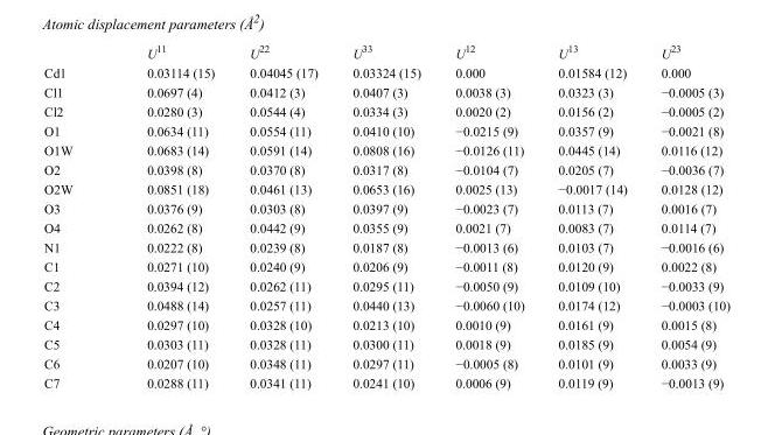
<table><thead><tr><td></td><td>U<sup>11</sup></td><td>U<sup>22</sup></td><td>U<sup>33</sup></td><td>U<sup>12</sup></td><td>U<sup>13</sup></td><td>U<sup>23</sup></td></tr></thead><tbody><tr><td>Cd1</td><td>0.03114 (15)</td><td>0.04045 (17)</td><td>0.03324 (15)</td><td>0.000</td><td>0.01584 (12)</td><td>0.000</td></tr><tr><td>Cl1</td><td>0.0697 (4)</td><td>0.0412 (3)</td><td>0.0407 (3)</td><td>0.0038 (3)</td><td>0.0323 (3)</td><td>−0.0005 (3)</td></tr><tr><td>Cl2</td><td>0.0280 (3)</td><td>0.0544 (4)</td><td>0.0334 (3)</td><td>0.0020 (2)</td><td>0.0156 (2)</td><td>−0.0005 (2)</td></tr><tr><td>O1</td><td>0.0634 (11)</td><td>0.0554 (11)</td><td>0.0410 (10)</td><td>−0.0215 (9)</td><td>0.0357 (9)</td><td>−0.0021 (8)</td></tr><tr><td>O1W</td><td>0.0683 (14)</td><td>0.0591 (14)</td><td>0.0808 (16)</td><td>−0.0126 (11)</td><td>0.0445 (14)</td><td>0.0116 (12)</td></tr><tr><td>O2</td><td>0.0398 (8)</td><td>0.0370 (8)</td><td>0.0317 (8)</td><td>−0.0104 (7)</td><td>0.0205 (7)</td><td>−0.0036 (7)</td></tr><tr><td>O2W</td><td>0.0851 (18)</td><td>0.0461 (13)</td><td>0.0653 (16)</td><td>0.0025 (13)</td><td>−0.0017 (14)</td><td>0.0128 (12)</td></tr><tr><td>O3</td><td>0.0376 (9)</td><td>0.0303 (8)</td><td>0.0397 (9)</td><td>−0.0023 (7)</td><td>0.0113 (7)</td><td>0.0016 (7)</td></tr><tr><td>O4</td><td>0.0262 (8)</td><td>0.0442 (9)</td><td>0.0355 (9)</td><td>0.0021 (7)</td><td>0.0083 (7)</td><td>0.0114 (7)</td></tr><tr><td>N1</td><td>0.0222 (8)</td><td>0.0239 (8)</td><td>0.0187 (8)</td><td>−0.0013 (6)</td><td>0.0103 (7)</td><td>−0.0016 (6)</td></tr><tr><td>C1</td><td>0.0271 (10)</td><td>0.0240 (9)</td><td>0.0206 (9)</td><td>−0.0011 (8)</td><td>0.0120 (9)</td><td>0.0022 (8)</td></tr><tr><td>C2</td><td>0.0394 (12)</td><td>0.0262 (11)</td><td>0.0295 (11)</td><td>−0.0050 (9)</td><td>0.0109 (10)</td><td>−0.0033 (9)</td></tr><tr><td>C3</td><td>0.0488 (14)</td><td>0.0257 (11)</td><td>0.0440 (13)</td><td>−0.0060 (10)</td><td>0.0174 (12)</td><td>−0.0003 (10)</td></tr><tr><td>C4</td><td>0.0297 (10)</td><td>0.0328 (10)</td><td>0.0213 (10)</td><td>0.0010 (9)</td><td>0.0161 (9)</td><td>0.0015 (8)</td></tr><tr><td>C5</td><td>0.0303 (11)</td><td>0.0328 (11)</td><td>0.0300 (11)</td><td>0.0018 (9)</td><td>0.0185 (9)</td><td>0.0054 (9)</td></tr><tr><td>C6</td><td>0.0207 (10)</td><td>0.0348 (11)</td><td>0.0297 (11)</td><td>−0.0005 (8)</td><td>0.0101 (9)</td><td>0.0033 (9)</td></tr><tr><td>C7</td><td>0.0288 (11)</td><td>0.0341 (11)</td><td>0.0241 (10)</td><td>0.0006 (9)</td><td>0.0119 (9)</td><td>−0.0013 (9)</td></tr></tbody></table>